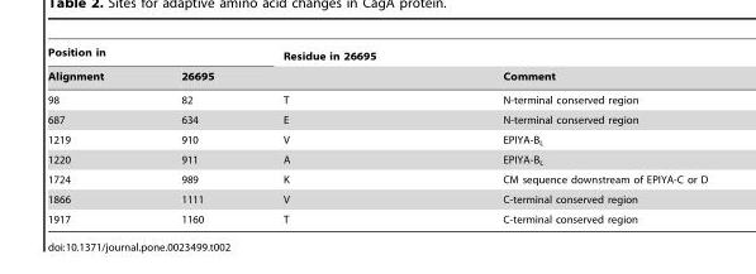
<table><thead><tr><td colspan="2">Position in</td><td rowspan="2">Residue in 26695</td><td rowspan="2">Comment</td></tr><tr><td>Alignment</td><td>26695</td></tr></thead><tbody><tr><td>98</td><td>82</td><td>T</td><td>N-terminal conserved region</td></tr><tr><td>687</td><td>634</td><td>E</td><td>N-terminal conserved region</td></tr><tr><td>1219</td><td>910</td><td>V</td><td>EPIYA-B<sub>L</sub></td></tr><tr><td>1220</td><td>911</td><td>A</td><td>EPIYA-B<sub>L</sub></td></tr><tr><td>1724</td><td>989</td><td>K</td><td>CM sequence downstream of EPIYA-C or D</td></tr><tr><td>1866</td><td>1111</td><td>V</td><td>C-terminal conserved region</td></tr><tr><td>1917</td><td>1160</td><td>T</td><td>C-terminal conserved region</td></tr></tbody></table>